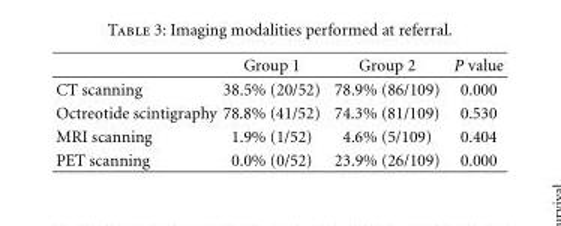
<table><thead><tr><td></td><td>Group 1</td><td>Group 2</td><td>P value</td></tr></thead><tbody><tr><td>CT scanning</td><td>38.5% (20/52)</td><td>78.9% (86/109)</td><td>0.000</td></tr><tr><td>Octreotide scintigraphy</td><td>78.8% (41/52)</td><td>74.3% (81/109)</td><td>0.530</td></tr><tr><td>MRI scanning</td><td>1.9% (1/52)</td><td>4.6% (5/109)</td><td>0.404</td></tr><tr><td>PET scanning</td><td>0.0% (0/52)</td><td>23.9% (26/109)</td><td>0.000</td></tr></tbody></table>